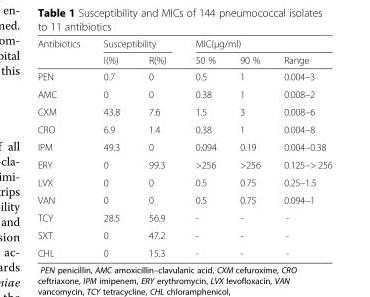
<table><thead><tr><td rowspan="2">Antibiotics</td><td colspan="2">Susceptibility</td><td colspan="3">MIC(μg/ml)</td></tr><tr><td>I(%)</td><td>R(%)</td><td>50 %</td><td>90 %</td><td>Range</td></tr></thead><tbody><tr><td>PEN</td><td>0.7</td><td>0</td><td>0.5</td><td>1</td><td>0.004–3</td></tr><tr><td>AMC</td><td>0</td><td>0</td><td>0.38</td><td>1</td><td>0.008–2</td></tr><tr><td>CXM</td><td>43.8</td><td>7.6</td><td>1.5</td><td>3</td><td>0.008–6</td></tr><tr><td>CRO</td><td>6.9</td><td>1.4</td><td>0.38</td><td>1</td><td>0.004–8</td></tr><tr><td>IPM</td><td>49.3</td><td>0</td><td>0.094</td><td>0.19</td><td>0.004–0.38</td></tr><tr><td>ERY</td><td>0</td><td>99.3</td><td>&gt;256</td><td>&gt;256</td><td>0.125–&gt; 256</td></tr><tr><td>LVX</td><td>0</td><td>0</td><td>0.5</td><td>0.75</td><td>0.25–1.5</td></tr><tr><td>VAN</td><td>0</td><td>0</td><td>0.5</td><td>0.75</td><td>0.094–1</td></tr><tr><td>TCY</td><td>28.5</td><td>56.9</td><td>-</td><td>-</td><td>-</td></tr><tr><td>SXT</td><td>0</td><td>47.2</td><td>-</td><td>-</td><td>-</td></tr><tr><td>CHL</td><td>0</td><td>15.3</td><td>-</td><td>-</td><td>-</td></tr></tbody></table>